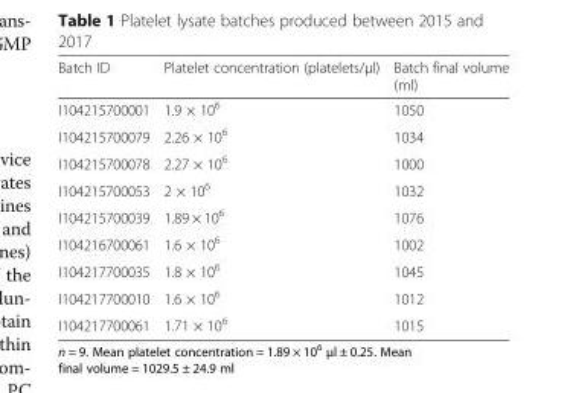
<table><thead><tr><td>Batch ID</td><td>Platelet concentration (platelets/μl)</td><td>Batch final volume (ml)</td></tr></thead><tbody><tr><td>I104215700001</td><td>1.9 × 10<sup>6</sup></td><td>1050</td></tr><tr><td>I104215700079</td><td>2.26 × 10<sup>6</sup></td><td>1034</td></tr><tr><td>I104215700078</td><td>2.27 × 10<sup>6</sup></td><td>1000</td></tr><tr><td>I104215700053</td><td>2 × 10<sup>6</sup></td><td>1032</td></tr><tr><td>I104215700039</td><td>1.89 × 10<sup>6</sup></td><td>1076</td></tr><tr><td>I104216700061</td><td>1.6 × 10<sup>6</sup></td><td>1002</td></tr><tr><td>I104217700035</td><td>1.8 × 10<sup>6</sup></td><td>1045</td></tr><tr><td>I104217700010</td><td>1.6 × 10<sup>6</sup></td><td>1012</td></tr><tr><td>I104217700061</td><td>1.71 × 10<sup>6</sup></td><td>1015</td></tr></tbody></table>